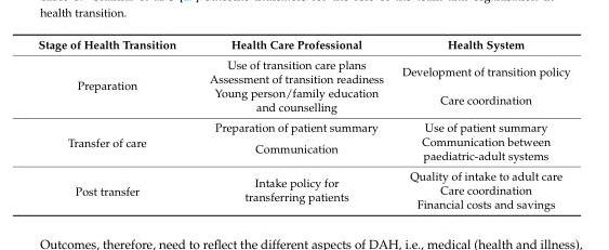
<table><thead><tr><td>Stage of Health Transition</td><td>Health Care Professional</td><td>Health System</td></tr></thead><tbody><tr><td rowspan="3">Preparation</td><td>Use of transition care plans</td><td rowspan="2">Development of transition policy</td></tr><tr><td>Assessment of transition readiness</td></tr><tr><td>Young person/family education and counselling</td><td>Care coordination</td></tr><tr><td rowspan="2">Transfer of care</td><td>Preparation of patient summary</td><td>Use of patient summary</td></tr><tr><td>Communication</td><td>Communication between paediatric-adult systems</td></tr><tr><td rowspan="3">Post transfer</td><td rowspan="3">Intake policy for transferring patients</td><td>Quality of intake to adult care</td></tr><tr><td>Care coordination</td></tr><tr><td>Financial costs and savings</td></tr></tbody></table>